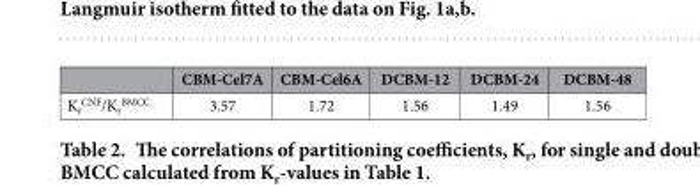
<table><thead><tr><td></td><td>CBM-Cel7A</td><td>CBM-Cel6A</td><td>DCBM-12</td><td>DCBM-24</td><td>DCBM-48</td></tr></thead><tbody><tr><td>K<sub>r</sub> <sup>CNF</sup>/K<sub>r</sub> <sup>BMCC</sup></td><td>3.57</td><td>1.72</td><td>1.56</td><td>1.49</td><td>1.56</td></tr></tbody></table>